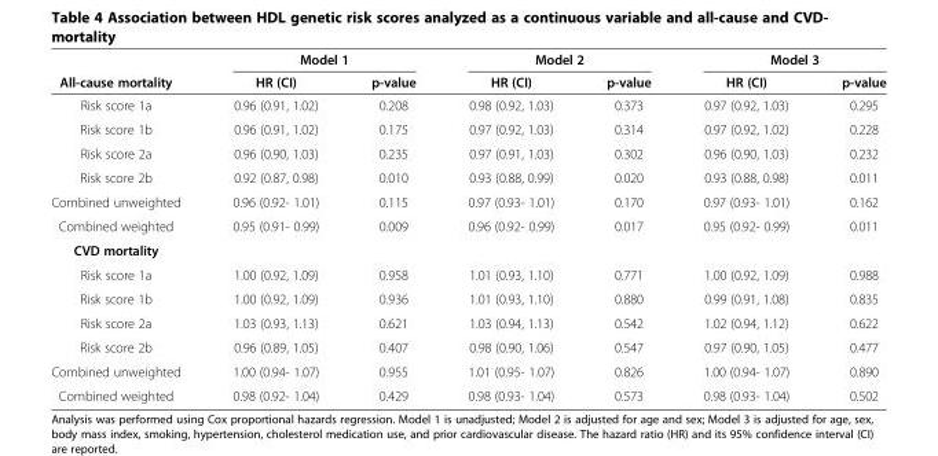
<table><thead><tr><td rowspan="2">All-cause mortality</td><td colspan="2">Model 1</td><td colspan="2">Model 2</td><td colspan="2">Model 3</td></tr><tr><td>HR (CI)</td><td>p-value</td><td>HR (CI)</td><td>p-value</td><td>HR (CI)</td><td>p-value</td></tr></thead><tbody><tr><td>Risk score 1a</td><td>0.96 (0.91, 1.02)</td><td>0.208</td><td>0.98 (0.92, 1.03)</td><td>0.373</td><td>0.97 (0.92, 1.03)</td><td>0.295</td></tr><tr><td>Risk score 1b</td><td>0.96 (0.91, 1.02)</td><td>0.175</td><td>0.97 (0.92, 1.03)</td><td>0.314</td><td>0.97 (0.92, 1.02)</td><td>0.228</td></tr><tr><td>Risk score 2a</td><td>0.96 (0.90, 1.03)</td><td>0.235</td><td>0.97 (0.91, 1.03)</td><td>0.302</td><td>0.96 (0.90, 1.03)</td><td>0.232</td></tr><tr><td>Risk score 2b</td><td>0.92 (0.87, 0.98)</td><td>0.010</td><td>0.93 (0.88, 0.99)</td><td>0.020</td><td>0.93 (0.88, 0.98)</td><td>0.011</td></tr><tr><td>Combined unweighted</td><td>0.96 (0.92- 1.01)</td><td>0.115</td><td>0.97 (0.93- 1.01)</td><td>0.170</td><td>0.97 (0.93- 1.01)</td><td>0.162</td></tr><tr><td>Combined weighted</td><td>0.95 (0.91- 0.99)</td><td>0.009</td><td>0.96 (0.92- 0.99)</td><td>0.017</td><td>0.95 (0.92- 0.99)</td><td>0.011</td></tr><tr><td colspan="7">CVD mortality</td></tr><tr><td>Risk score 1a</td><td>1.00 (0.92, 1.09)</td><td>0.958</td><td>1.01 (0.93, 1.10)</td><td>0.771</td><td>1.00 (0.92, 1.09)</td><td>0.988</td></tr><tr><td>Risk score 1b</td><td>1.00 (0.92, 1.09)</td><td>0.936</td><td>1.01 (0.93, 1.10)</td><td>0.880</td><td>0.99 (0.91, 1.08)</td><td>0.835</td></tr><tr><td>Risk score 2a</td><td>1.03 (0.93, 1.13)</td><td>0.621</td><td>1.03 (0.94, 1.13)</td><td>0.542</td><td>1.02 (0.94, 1.12)</td><td>0.622</td></tr><tr><td>Risk score 2b</td><td>0.96 (0.89, 1.05)</td><td>0.407</td><td>0.98 (0.90, 1.06)</td><td>0.547</td><td>0.97 (0.90, 1.05)</td><td>0.477</td></tr><tr><td>Combined unweighted</td><td>1.00 (0.94- 1.07)</td><td>0.955</td><td>1.01 (0.95- 1.07)</td><td>0.826</td><td>1.00 (0.94- 1.07)</td><td>0.890</td></tr><tr><td>Combined weighted</td><td>0.98 (0.92- 1.04)</td><td>0.429</td><td>0.98 (0.93- 1.04)</td><td>0.573</td><td>0.98 (0.93- 1.04)</td><td>0.502</td></tr></tbody></table>